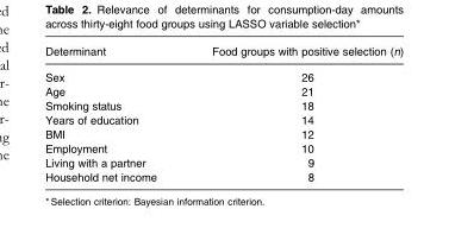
<table><thead><tr><td>Determinant</td><td>Food groups with positive selection (n)</td></tr></thead><tbody><tr><td>Sex</td><td>26</td></tr><tr><td>Age</td><td>21</td></tr><tr><td>Smoking status</td><td>18</td></tr><tr><td>Years of education</td><td>14</td></tr><tr><td>BMI</td><td>12</td></tr><tr><td>Employment</td><td>10</td></tr><tr><td>Living with a partner</td><td>9</td></tr><tr><td>Household net income</td><td>8</td></tr></tbody></table>